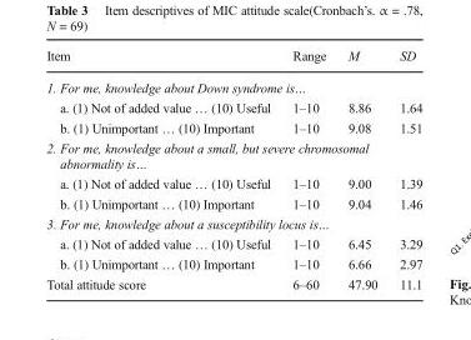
<table><thead><tr><td>Item</td><td>Range</td><td>M</td><td>SD</td></tr></thead><tbody><tr><td colspan="4">1. For me, knowledge about Down syndrome is…</td></tr><tr><td>a. (1) Not of added value … (10) Useful</td><td>1–10</td><td>8.86</td><td>1.64</td></tr><tr><td>b. (1) Unimportant … (10) Important</td><td>1–10</td><td>9.08</td><td>1.51</td></tr><tr><td colspan="4">2. For me, knowledge about a small, but severe chromosomal abnormality is…</td></tr><tr><td>a. (1) Not of added value … (10) Useful</td><td>1–10</td><td>9.00</td><td>1.39</td></tr><tr><td>b. (1) Unimportant … (10) Important</td><td>1–10</td><td>9.04</td><td>1.46</td></tr><tr><td colspan="4">3. For me, knowledge about a susceptibility locus is…</td></tr><tr><td>a. (1) Not of added value … (10) Useful</td><td>1–10</td><td>6.45</td><td>3.29</td></tr><tr><td>b. (1) Unimportant … (10) Important</td><td>1–10</td><td>6.66</td><td>2.97</td></tr><tr><td>Total attitude score</td><td>6–60</td><td>47.90</td><td>11.1</td></tr></tbody></table>